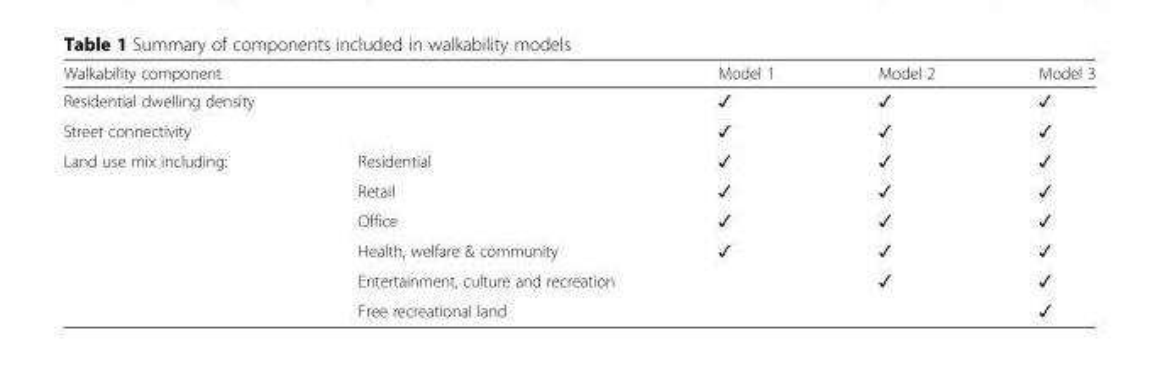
<table><thead><tr><td>Walkability component</td><td></td><td>Model 1</td><td>Model 2</td><td>Model 3</td></tr></thead><tbody><tr><td>Residential dwelling density</td><td></td><td>✓</td><td>✓</td><td>✓</td></tr><tr><td>Street connectivity</td><td></td><td>✓</td><td>✓</td><td>✓</td></tr><tr><td rowspan="6">Land use mix including:</td><td>Residential</td><td>✓</td><td>✓</td><td>✓</td></tr><tr><td>Retail</td><td>✓</td><td>✓</td><td>✓</td></tr><tr><td>Office</td><td>✓</td><td>✓</td><td>✓</td></tr><tr><td>Health, welfare &amp; community</td><td>✓</td><td>✓</td><td>✓</td></tr><tr><td>Entertainment, culture and recreation</td><td></td><td>✓</td><td>✓</td></tr><tr><td>Free recreational land</td><td></td><td></td><td>✓</td></tr></tbody></table>